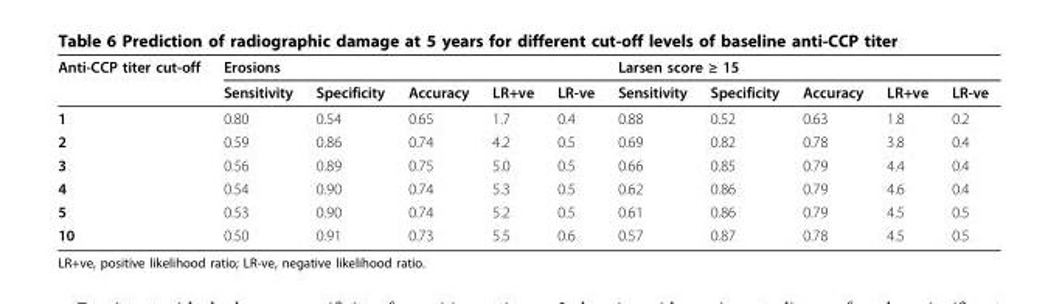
<table><thead><tr><td rowspan="2">Anti-CCP titer cut-off</td><td colspan="5">Erosions</td><td colspan="5">Larsen score ≥ 15</td></tr><tr><td>Sensitivity</td><td>Specificity</td><td>Accuracy</td><td>LR+ve</td><td>LR-ve</td><td>Sensitivity</td><td>Specificity</td><td>Accuracy</td><td>LR+ve</td><td>LR-ve</td></tr></thead><tbody><tr><td>1</td><td>0.80</td><td>0.54</td><td>0.65</td><td>1.7</td><td>0.4</td><td>0.88</td><td>0.52</td><td>0.63</td><td>1.8</td><td>0.2</td></tr><tr><td>2</td><td>0.59</td><td>0.86</td><td>0.74</td><td>4.2</td><td>0.5</td><td>0.69</td><td>0.82</td><td>0.78</td><td>3.8</td><td>0.4</td></tr><tr><td>3</td><td>0.56</td><td>0.89</td><td>0.75</td><td>5.0</td><td>0.5</td><td>0.66</td><td>0.85</td><td>0.79</td><td>4.4</td><td>0.4</td></tr><tr><td>4</td><td>0.54</td><td>0.90</td><td>0.74</td><td>5.3</td><td>0.5</td><td>0.62</td><td>0.86</td><td>0.79</td><td>4.6</td><td>0.4</td></tr><tr><td>5</td><td>0.53</td><td>0.90</td><td>0.74</td><td>5.2</td><td>0.5</td><td>0.61</td><td>0.86</td><td>0.79</td><td>4.5</td><td>0.5</td></tr><tr><td>10</td><td>0.50</td><td>0.91</td><td>0.73</td><td>5.5</td><td>0.6</td><td>0.57</td><td>0.87</td><td>0.78</td><td>4.5</td><td>0.5</td></tr></tbody></table>